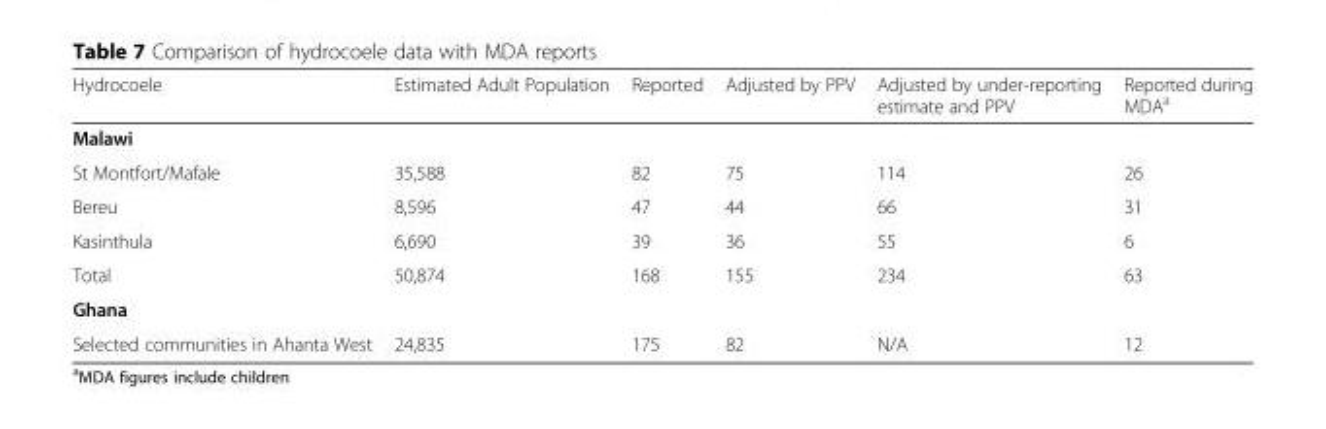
<table><thead><tr><td>Hydrocoele</td><td>Estimated Adult Population</td><td>Reported</td><td>Adjusted by PPV</td><td>Adjusted by under-reporting estimate and PPV</td><td>Reported during MDA<sup>a</sup></td></tr></thead><tbody><tr><td colspan="6">Malawi</td></tr><tr><td>St Montfort/Mafale</td><td>35,588</td><td>82</td><td>75</td><td>114</td><td>26</td></tr><tr><td>Bereu</td><td>8,596</td><td>47</td><td>44</td><td>66</td><td>31</td></tr><tr><td>Kasinthula</td><td>6,690</td><td>39</td><td>36</td><td>55</td><td>6</td></tr><tr><td>Total</td><td>50,874</td><td>168</td><td>155</td><td>234</td><td>63</td></tr><tr><td colspan="6">Ghana</td></tr><tr><td>Selected communities in Ahanta West</td><td>24,835</td><td>175</td><td>82</td><td>N/A</td><td>12</td></tr></tbody></table>